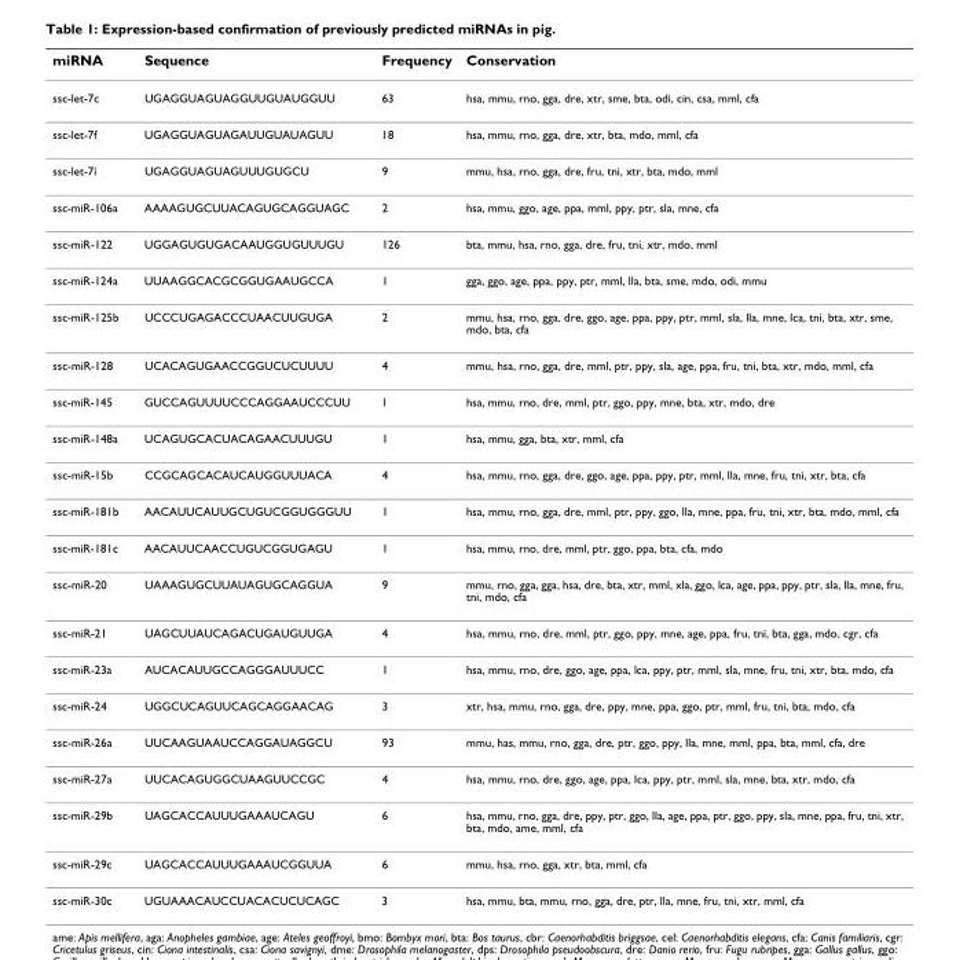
<table><thead><tr><td>miRNA</td><td>Sequence</td><td>Frequency</td><td>Conservation</td></tr></thead><tbody><tr><td>ssc-let-7c</td><td>UGAGGUAGUAGGUUGUAUGGUU</td><td>63</td><td>hsa, mmu, rno, gga, dre, xtr, sme, bta, odi, cin, csa, mml, cfa</td></tr><tr><td>ssc-let-7f</td><td>UGAGGUAGUAGAUUGUAUAGUU</td><td>18</td><td>hsa, mmu, rno, gga, dre, xtr, bta, mdo, mml, cfa</td></tr><tr><td>ssc-let-7i</td><td>UGAGGUAGUAGUUUGUGCU</td><td>9</td><td>mmu, hsa, rno, gga, dre, fru, tni, xtr, bta, mdo, mml</td></tr><tr><td>ssc-miR-106a</td><td>AAAAGUGCUUACAGUGCAGGUAGC</td><td>2</td><td>hsa, mmu, ggo, age, ppa, mml, ppy, ptr, sla, mne, cfa</td></tr><tr><td>ssc-miR-122</td><td>UGGAGUGUGACAAUGGUGUUUGU</td><td>126</td><td>bta, mmu, hsa, rno, gga, dre, fru, tni, xtr, mdo, mml</td></tr><tr><td>ssc-miR-124a</td><td>UUAAGGCACGCGGUGAAUGCCA</td><td>1</td><td>gga, ggo, age, ppa, ppy, ptr, mml, lla, bta, sme, mdo, odi, mmu</td></tr><tr><td>ssc-miR-125b</td><td>UCCCUGAGACCCUAACUUGUGA</td><td>2</td><td>mmu, hsa, rno, gga, dre, ggo, age, ppa, ppy, ptr, mml, sla, lla, mne, lca, tni, bta, xtr, sme, mdo, bta, cfa</td></tr><tr><td>ssc-miR-128</td><td>UCACAGUGAACCGGUCUCUUUU</td><td>4</td><td>mmu, hsa, rno, gga, dre, mml, ptr, ppy, sla, age, ppa, fru, tni, bta, xtr, mdo, mml, cfa</td></tr><tr><td>ssc-miR-145</td><td>GUCCAGUUUUCCCAGGAAUCCCUU</td><td>1</td><td>hsa, mmu, rno, dre, mml, ptr, ggo, ppy, mne, bta, xtr, mdo, dre</td></tr><tr><td>ssc-miR-148a</td><td>UCAGUGCACUACAGAACUUUGU</td><td>1</td><td>hsa, mmu, gga, bta, xtr, mml, cfa</td></tr><tr><td>ssc-miR-15b</td><td>CCGCAGCACAUCAUGGUUUACA</td><td>4</td><td>hsa, mmu, rno, gga, dre, ggo, age, ppa, ppy, ptr, mml, lla, mne, fru, tni, xtr, bta, cfa</td></tr><tr><td>ssc-miR-181b</td><td>AACAUUCAUUGCUGUCGGUGGGUU</td><td>1</td><td>hsa, mmu, rno, gga, dre, mml, ptr, ppy, ggo, lla, mne, ppa, fru, tni, xtr, bta, mdo, mml, cfa</td></tr><tr><td>ssc-miR-181c</td><td>AACAUUCAACCUGUCGGUGAGU</td><td>1</td><td>hsa, mmu, rno, dre, mml, ptr, ggo, ppa, bta, cfa, mdo</td></tr><tr><td>ssc-miR-20</td><td>UAAAGUGCUUAUAGUGCAGGUA</td><td>9</td><td>mmu, rno, gga, gga, hsa, dre, bta, xtr, mml, xla, ggo, lca, age, ppa, ppy, ptr, sla, lla, mne, fru, tni, mdo, cfa</td></tr><tr><td>ssc-miR-21</td><td>UAGCUUAUCAGACUGAUGUUGA</td><td>4</td><td>hsa, mmu, rno, dre, mml, ptr, ggo, ppy, mne, age, ppa, fru, tni, bta, gga, mdo, cgr, cfa</td></tr><tr><td>ssc-miR-23a</td><td>AUCACAUUGCCAGGGAUUUCC</td><td>1</td><td>hsa, mmu, rno, dre, ggo, age, ppa, lca, ppy, ptr, mml, sla, mne, fru, tni, xtr, bta, mdo, cfa</td></tr><tr><td>ssc-miR-24</td><td>UGGCUCAGUUCAGCAGGAACAG</td><td>3</td><td>xtr, hsa, mmu, rno, gga, dre, ppy, mne, ppa, ggo, ptr, mml, fru, tni, bta, mdo, cfa</td></tr><tr><td>ssc-miR-26a</td><td>UUCAAGUAAUCCAGGAUAGGCU</td><td>93</td><td>mmu, has, mmu, rno, gga, dre, ptr, ggo, ppy, lla, mne, mml, ppa, bta, mml, cfa, dre</td></tr><tr><td>ssc-miR-27a</td><td>UUCACAGUGGCUAAGUUCCGC</td><td>4</td><td>hsa, mmu, rno, dre, ggo, age, ppa, lca, ppy, ptr, mml, sla, mne, bta, xtr, mdo, cfa</td></tr><tr><td>ssc-miR-29b</td><td>UAGCACCAUUUGAAAUCAGU</td><td>6</td><td>hsa, mmu, rno, gga, dre, ppy, ptr, ggo, lla, age, ppa, ptr, ggo, ppy, sla, mne, ppa, fru, tni, xtr, bta, mdo, ame, mml, cfa</td></tr><tr><td>ssc-miR-29c</td><td>UAGCACCAUUUGAAAUCGGUUA</td><td>6</td><td>mmu, hsa, rno, gga, xtr, bta, mml, cfa</td></tr><tr><td>ssc-miR-30c</td><td>UGUAAACAUCCUACACUCUCAGC</td><td>3</td><td>hsa, mmu, bta, mmu, rno, gga, dre, ptr, lla, mne, fru, tni, xtr, mml, cfa</td></tr></tbody></table>